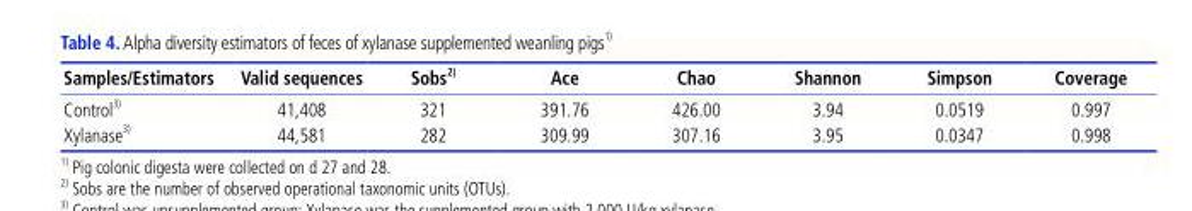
<table><thead><tr><td>Samples/Estimators</td><td>Valid sequences</td><td>Sobs 2)</td><td>Ace</td><td>Chao</td><td>Shannon</td><td>Simpson</td><td>Coverage</td></tr></thead><tbody><tr><td>Control 3)</td><td>41,408</td><td>321</td><td>391.76</td><td>426.00</td><td>3.94</td><td>0.0519</td><td>0.997</td></tr><tr><td>Xylanase 3)</td><td>44,581</td><td>282</td><td>309.99</td><td>307.16</td><td>3.95</td><td>0.0347</td><td>0.998</td></tr></tbody></table>